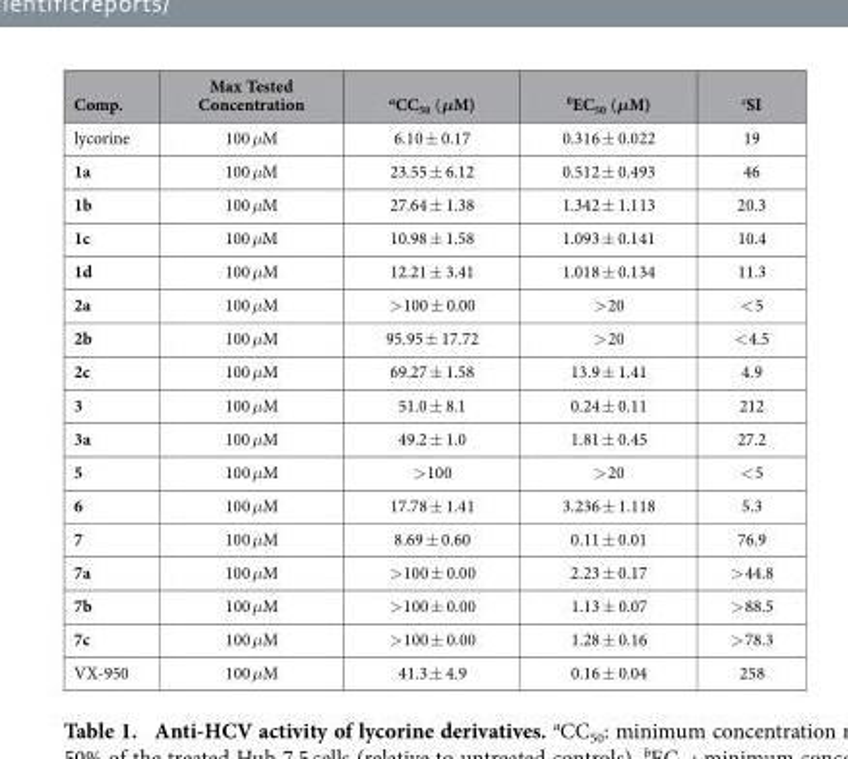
<table><thead><tr><td>Comp.</td><td>Max Tested Concentration</td><td><sup>a</sup>CC<sub>50</sub> (μM)</td><td><sup>b</sup>EC<sub>50</sub> (μM)</td><td><sup>c</sup>SI</td></tr></thead><tbody><tr><td>lycorine</td><td>100 μM</td><td>6.10 ± 0.17</td><td>0.316 ± 0.022</td><td>19</td></tr><tr><td>1a</td><td>100 μM</td><td>23.55 ± 6.12</td><td>0.512 ± 0.493</td><td>46</td></tr><tr><td>1b</td><td>100 μM</td><td>27.64 ± 1.38</td><td>1.342 ± 1.113</td><td>20.3</td></tr><tr><td>1c</td><td>100 μM</td><td>10.98 ± 1.58</td><td>1.093 ± 0.141</td><td>10.4</td></tr><tr><td>1d</td><td>100 μM</td><td>12.21 ± 3.41</td><td>1.018 ± 0.134</td><td>11.3</td></tr><tr><td>2a</td><td>100 μM</td><td>&gt; 100 ± 0.00</td><td>&gt; 20</td><td>&lt; 5</td></tr><tr><td>2b</td><td>100 μM</td><td>95.95 ± 17.72</td><td>&gt; 20</td><td>&lt; 4.5</td></tr><tr><td>2c</td><td>100 μM</td><td>69.27 ± 1.58</td><td>13.9 ± 1.41</td><td>4.9</td></tr><tr><td>3</td><td>100 μM</td><td>51.0 ± 8.1</td><td>0.24 ± 0.11</td><td>212</td></tr><tr><td>3a</td><td>100 μM</td><td>49.2 ± 1.0</td><td>1.81 ± 0.45</td><td>27.2</td></tr><tr><td>5</td><td>100 μM</td><td>&gt; 100</td><td>&gt; 20</td><td>&lt; 5</td></tr><tr><td>6</td><td>100 μM</td><td>17.78 ± 1.41</td><td>3.236 ± 1.118</td><td>5.3</td></tr><tr><td>7</td><td>100 μM</td><td>8.69 ± 0.60</td><td>0.11 ± 0.01</td><td>76.9</td></tr><tr><td>7a</td><td>100 μM</td><td>&gt; 100 ± 0.00</td><td>2.23 ± 0.17</td><td>&gt; 44.8</td></tr><tr><td>7b</td><td>100 μM</td><td>&gt; 100 ± 0.00</td><td>1.13 ± 0.07</td><td>&gt; 88.5</td></tr><tr><td>7c</td><td>100 μM</td><td>&gt; 100 ± 0.00</td><td>1.28 ± 0.16</td><td>&gt; 78.3</td></tr><tr><td>VX-950</td><td>100 μM</td><td>41.3 ± 4.9</td><td>0.16 ± 0.04</td><td>258</td></tr></tbody></table>